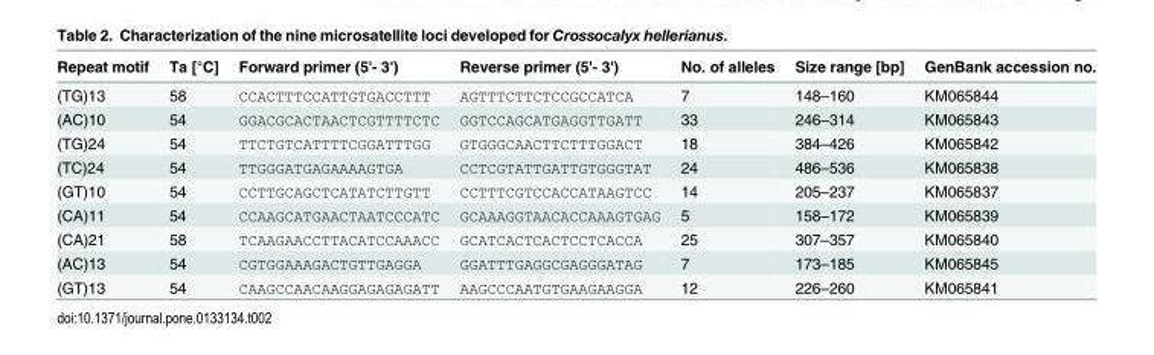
<table><thead><tr><td>Repeat motif</td><td>Ta [°C]</td><td>Forward primer (5&#x27;- 3&#x27;)</td><td>Reverse primer (5&#x27;- 3&#x27;)</td><td>No. of alleles</td><td>Size range [bp]</td><td>GenBank accession no.</td></tr></thead><tbody><tr><td>(TG)13</td><td>58</td><td>CCACTTTCCATTGTGACCTTT</td><td>AGTTTCTTCTCCGCCATCA</td><td>7</td><td>148–160</td><td>KM065844</td></tr><tr><td>(AC)10</td><td>54</td><td>GGACGCACTAACTCGTTTTCTC</td><td>GGTCCAGCATGAGGTTGATT</td><td>33</td><td>246–314</td><td>KM065843</td></tr><tr><td>(TG)24</td><td>54</td><td>TTCTGTCATTTTCGGATTTGG</td><td>GTGGGCAACTTCTTTGGACT</td><td>18</td><td>384–426</td><td>KM065842</td></tr><tr><td>(TC)24</td><td>54</td><td>TTGGGATGAGAAAAGTGA</td><td>CCTCGTATTGATTGTGGGTAT</td><td>24</td><td>486–536</td><td>KM065838</td></tr><tr><td>(GT)10</td><td>54</td><td>CCTTGCAGCTCATATCTTGTT</td><td>CCTTTCGTCCACCATAAGTCC</td><td>14</td><td>205–237</td><td>KM065837</td></tr><tr><td>(CA)11</td><td>54</td><td>CCAAGCATGAACTAATCCCATC</td><td>GCAAAGGTAACACCAAAGTGAG</td><td>5</td><td>158–172</td><td>KM065839</td></tr><tr><td>(CA)21</td><td>58</td><td>TCAAGAACCTTACATCCAAACC</td><td>GCATCACTCACTCCTCACCA</td><td>25</td><td>307–357</td><td>KM065840</td></tr><tr><td>(AC)13</td><td>54</td><td>CGTGGAAAGACTGTTGAGGA</td><td>GGATTTGAGGCGAGGGATAG</td><td>7</td><td>173–185</td><td>KM065845</td></tr><tr><td>(GT)13</td><td>54</td><td>CAAGCCAACAAGGAGAGAGATT</td><td>AAGCCCAATGTGAAGAAGGA</td><td>12</td><td>226–260</td><td>KM065841</td></tr></tbody></table>